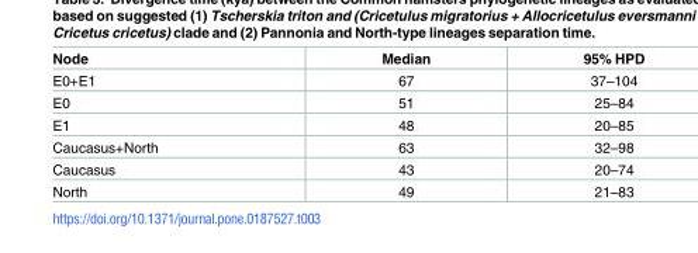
<table><thead><tr><td>Node</td><td>Median</td><td>95% HPD</td></tr></thead><tbody><tr><td>E0+E1</td><td>67</td><td>37–104</td></tr><tr><td>E0</td><td>51</td><td>25–84</td></tr><tr><td>E1</td><td>48</td><td>20–85</td></tr><tr><td>Caucasus+North</td><td>63</td><td>32–98</td></tr><tr><td>Caucasus</td><td>43</td><td>20–74</td></tr><tr><td>North</td><td>49</td><td>21–83</td></tr></tbody></table>